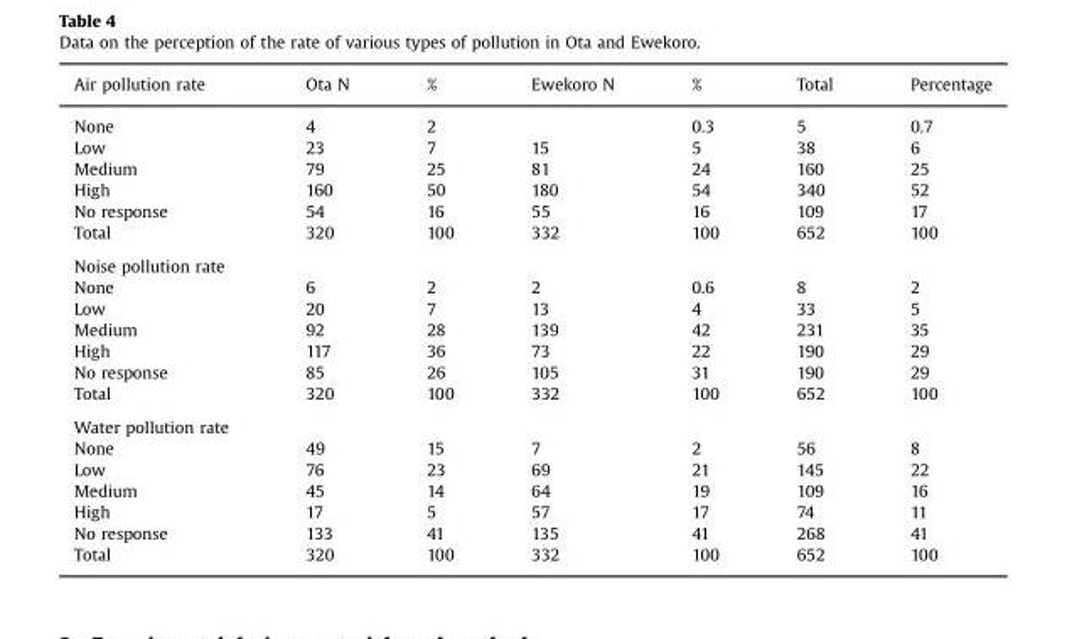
<table><thead><tr><td>Air pollution rate</td><td>Ota N</td><td>%</td><td>Ewekoro N</td><td>%</td><td>Total</td><td>Percentage</td></tr></thead><tbody><tr><td>None</td><td>4</td><td>2</td><td></td><td>0.3</td><td>5</td><td>0.7</td></tr><tr><td>Low</td><td>23</td><td>7</td><td>15</td><td>5</td><td>38</td><td>6</td></tr><tr><td>Medium</td><td>79</td><td>25</td><td>81</td><td>24</td><td>160</td><td>25</td></tr><tr><td>High</td><td>160</td><td>50</td><td>180</td><td>54</td><td>340</td><td>52</td></tr><tr><td>No response</td><td>54</td><td>16</td><td>55</td><td>16</td><td>109</td><td>17</td></tr><tr><td>Total</td><td>320</td><td>100</td><td>332</td><td>100</td><td>652</td><td>100</td></tr><tr><td colspan="7">Noise pollution rate</td></tr><tr><td>None</td><td>6</td><td>2</td><td>2</td><td>0.6</td><td>8</td><td>2</td></tr><tr><td>Low</td><td>20</td><td>7</td><td>13</td><td>4</td><td>33</td><td>5</td></tr><tr><td>Medium</td><td>92</td><td>28</td><td>139</td><td>42</td><td>231</td><td>35</td></tr><tr><td>High</td><td>117</td><td>36</td><td>73</td><td>22</td><td>190</td><td>29</td></tr><tr><td>No response</td><td>85</td><td>26</td><td>105</td><td>31</td><td>190</td><td>29</td></tr><tr><td>Total</td><td>320</td><td>100</td><td>332</td><td>100</td><td>652</td><td>100</td></tr><tr><td colspan="7">Water pollution rate</td></tr><tr><td>None</td><td>49</td><td>15</td><td>7</td><td>2</td><td>56</td><td>8</td></tr><tr><td>Low</td><td>76</td><td>23</td><td>69</td><td>21</td><td>145</td><td>22</td></tr><tr><td>Medium</td><td>45</td><td>14</td><td>64</td><td>19</td><td>109</td><td>16</td></tr><tr><td>High</td><td>17</td><td>5</td><td>57</td><td>17</td><td>74</td><td>11</td></tr><tr><td>No response</td><td>133</td><td>41</td><td>135</td><td>41</td><td>268</td><td>41</td></tr><tr><td>Total</td><td>320</td><td>100</td><td>332</td><td>100</td><td>652</td><td>100</td></tr></tbody></table>